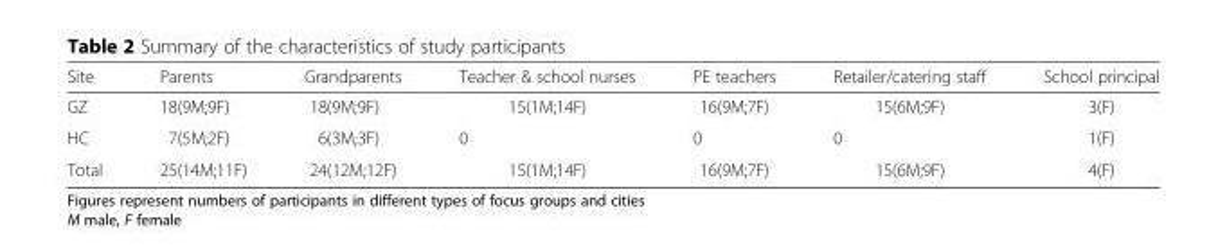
<table><thead><tr><td>Site</td><td>Parents</td><td>Grandparents</td><td>Teacher &amp; school nurses</td><td>PE teachers</td><td>Retailer/catering staff</td><td>School principal</td></tr></thead><tbody><tr><td>GZ</td><td>18(9M;9F)</td><td>18(9M;9F)</td><td>15(1M;14F)</td><td>16(9M;7F)</td><td>15(6M;9F)</td><td>3(F)</td></tr><tr><td>HC</td><td>7(5M;2F)</td><td>6(3M;3F)</td><td>0</td><td>0</td><td>0</td><td>1(F)</td></tr><tr><td>Total</td><td>25(14M;11F)</td><td>24(12M;12F)</td><td>15(1M;14F)</td><td>16(9M;7F)</td><td>15(6M;9F)</td><td>4(F)</td></tr></tbody></table>